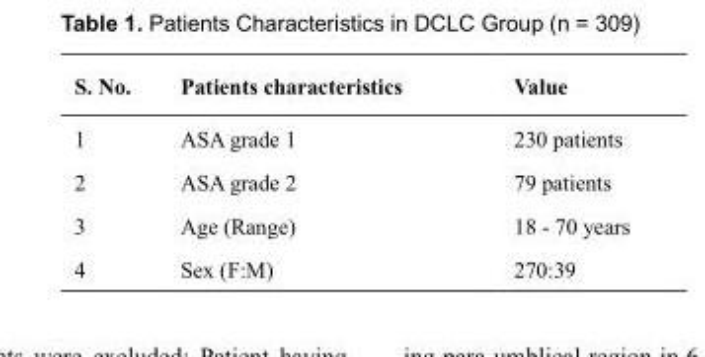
<table><thead><tr><td>S. No.</td><td>Patients characteristics</td><td>Value</td></tr></thead><tbody><tr><td>1</td><td>ASA grade 1</td><td>230 patients</td></tr><tr><td>2</td><td>ASA grade 2</td><td>79 patients</td></tr><tr><td>3</td><td>Age (Range)</td><td>18 - 70 years</td></tr><tr><td>4</td><td>Sex (F:M)</td><td>270:39</td></tr></tbody></table>